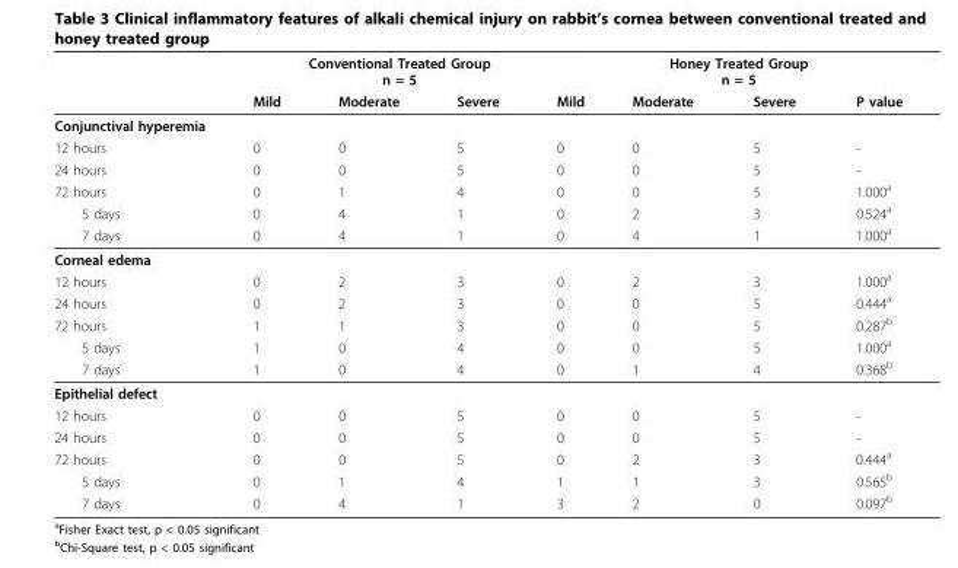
<table><thead><tr><td rowspan="2"></td><td colspan="3">Conventional Treated Group n = 5</td><td rowspan="2">Mild</td><td colspan="2">Honey Treated Group n = 5</td><td rowspan="2">P value</td></tr><tr><td>Mild</td><td>Moderate</td><td>Severe</td><td>Moderate</td><td>Severe</td></tr></thead><tbody><tr><td colspan="8">Conjunctival hyperemia</td></tr><tr><td>12 hours</td><td>0</td><td>0</td><td>5</td><td>0</td><td>0</td><td>5</td><td>-</td></tr><tr><td>24 hours</td><td>0</td><td>0</td><td>5</td><td>0</td><td>0</td><td>5</td><td>-</td></tr><tr><td>72 hours</td><td>0</td><td>1</td><td>4</td><td>0</td><td>0</td><td>5</td><td>1.000<sup>a</sup></td></tr><tr><td>5 days</td><td>0</td><td>4</td><td>1</td><td>0</td><td>2</td><td>3</td><td>0.524<sup>a</sup></td></tr><tr><td>7 days</td><td>0</td><td>4</td><td>1</td><td>0</td><td>4</td><td>1</td><td>1.000<sup>a</sup></td></tr><tr><td colspan="8">Corneal edema</td></tr><tr><td>12 hours</td><td>0</td><td>2</td><td>3</td><td>0</td><td>2</td><td>3</td><td>1.000<sup>a</sup></td></tr><tr><td>24 hours</td><td>0</td><td>2</td><td>3</td><td>0</td><td>0</td><td>5</td><td>0.444<sup>a</sup></td></tr><tr><td>72 hours</td><td>1</td><td>1</td><td>3</td><td>0</td><td>0</td><td>5</td><td>0.287<sup>b</sup></td></tr><tr><td>5 days</td><td>1</td><td>0</td><td>4</td><td>0</td><td>0</td><td>5</td><td>1.000<sup>a</sup></td></tr><tr><td>7 days</td><td>1</td><td>0</td><td>4</td><td>0</td><td>1</td><td>4</td><td>0.368<sup>b</sup></td></tr><tr><td colspan="8">Epithelial defect</td></tr><tr><td>12 hours</td><td>0</td><td>0</td><td>5</td><td>0</td><td>0</td><td>5</td><td>-</td></tr><tr><td>24 hours</td><td>0</td><td>0</td><td>5</td><td>0</td><td>0</td><td>5</td><td>-</td></tr><tr><td>72 hours</td><td>0</td><td>0</td><td>5</td><td>0</td><td>2</td><td>3</td><td>0.444<sup>a</sup></td></tr><tr><td>5 days</td><td>0</td><td>1</td><td>4</td><td>1</td><td>1</td><td>3</td><td>0.565<sup>b</sup></td></tr><tr><td>7 days</td><td>0</td><td>4</td><td>1</td><td>3</td><td>2</td><td>0</td><td>0.097<sup>b</sup></td></tr></tbody></table>